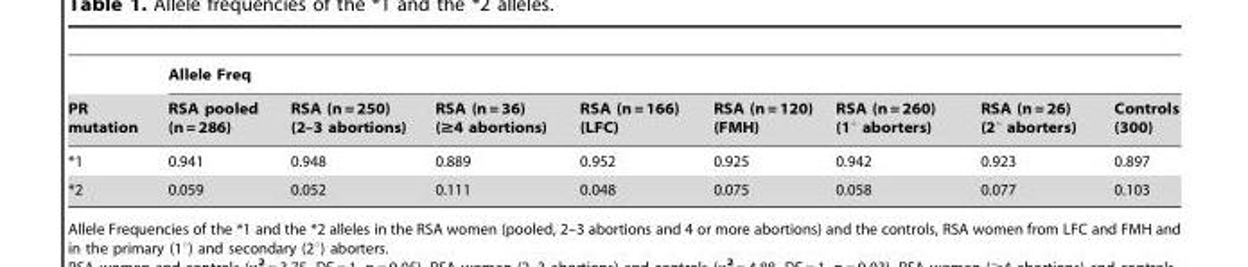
<table><thead><tr><td rowspan="2">PR mutation</td><td colspan="8">Allele Freq</td></tr><tr><td>RSA pooled (n = 286)</td><td>RSA (n = 250) (2–3 abortions)</td><td>RSA (n = 36) (≥4 abortions)</td><td>RSA (n = 166) (LFC)</td><td>RSA (n = 120) (FMH)</td><td>RSA (n = 260) (1° aborters)</td><td>RSA (n = 26) (2° aborters)</td><td>Controls (300)</td></tr></thead><tbody><tr><td>*1</td><td>0.941</td><td>0.948</td><td>0.889</td><td>0.952</td><td>0.925</td><td>0.942</td><td>0.923</td><td>0.897</td></tr><tr><td>*2</td><td>0.059</td><td>0.052</td><td>0.111</td><td>0.048</td><td>0.075</td><td>0.058</td><td>0.077</td><td>0.103</td></tr></tbody></table>